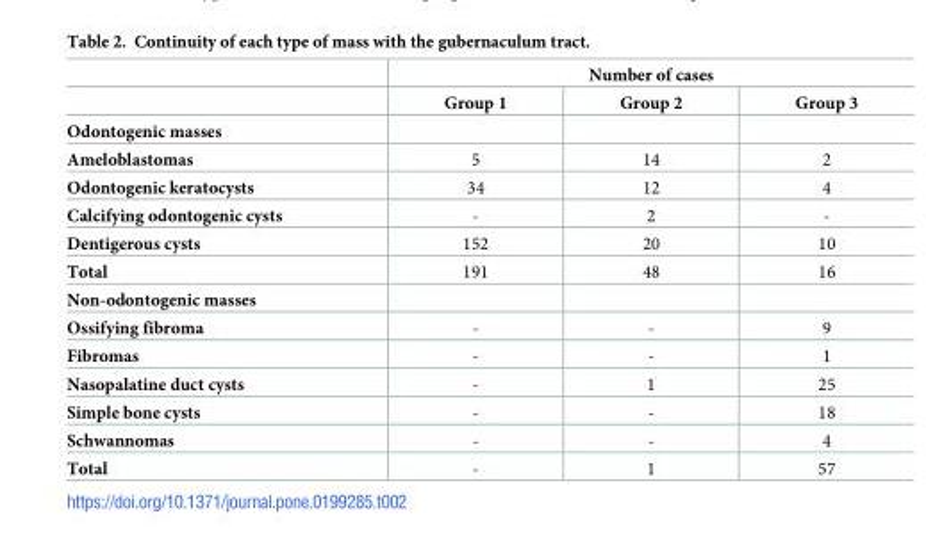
<table><thead><tr><td rowspan="2"></td><td colspan="3">Number of cases</td></tr><tr><td>Group 1</td><td>Group 2</td><td>Group 3</td></tr></thead><tbody><tr><td colspan="4">Odontogenic masses</td></tr><tr><td>Ameloblastomas</td><td>5</td><td>14</td><td>2</td></tr><tr><td>Odontogenic keratocysts</td><td>34</td><td>12</td><td>4</td></tr><tr><td>Calcifying odontogenic cysts</td><td>-</td><td>2</td><td>-</td></tr><tr><td>Dentigerous cysts</td><td>152</td><td>20</td><td>10</td></tr><tr><td>Total</td><td>191</td><td>48</td><td>16</td></tr><tr><td colspan="4">Non-odontogenic masses</td></tr><tr><td>Ossifying fibroma</td><td>-</td><td>-</td><td>9</td></tr><tr><td>Fibromas</td><td>-</td><td>-</td><td>1</td></tr><tr><td>Nasopalatine duct cysts</td><td>-</td><td>1</td><td>25</td></tr><tr><td>Simple bone cysts</td><td>-</td><td>-</td><td>18</td></tr><tr><td>Schwannomas</td><td>-</td><td>-</td><td>4</td></tr><tr><td>Total</td><td>-</td><td>1</td><td>57</td></tr></tbody></table>